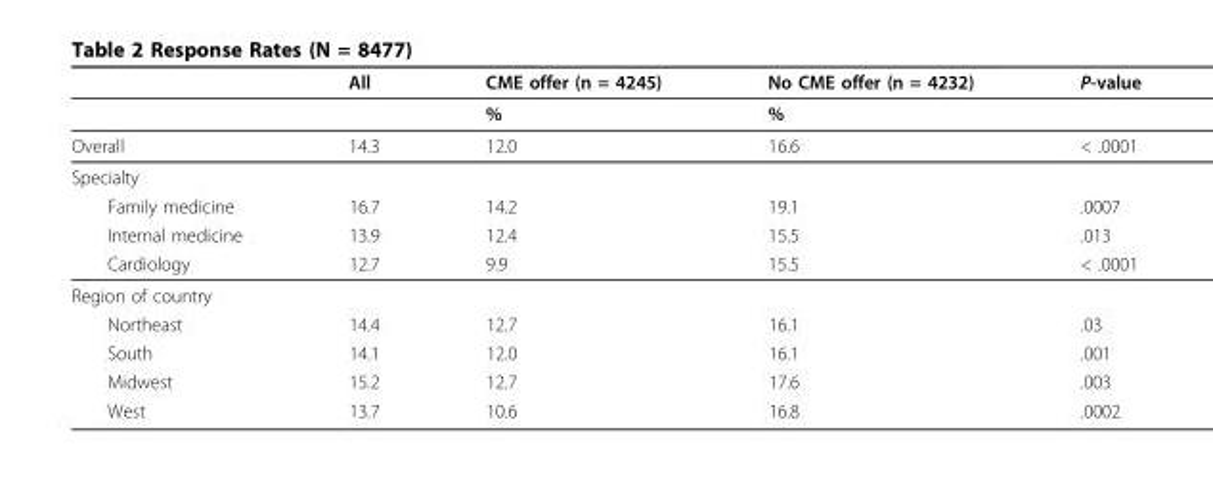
<table><thead><tr><td></td><td>All</td><td>CME offer (n = 4245)</td><td>No CME offer (n = 4232)</td><td>P-value</td></tr></thead><tbody><tr><td></td><td></td><td>%</td><td>%</td><td></td></tr><tr><td>Overall</td><td>14.3</td><td>12.0</td><td>16.6</td><td>&lt; .0001</td></tr><tr><td colspan="5">Specialty</td></tr><tr><td>Family medicine</td><td>16.7</td><td>14.2</td><td>19.1</td><td>.0007</td></tr><tr><td>Internal medicine</td><td>13.9</td><td>12.4</td><td>15.5</td><td>.013</td></tr><tr><td>Cardiology</td><td>12.7</td><td>9.9</td><td>15.5</td><td>&lt; .0001</td></tr><tr><td colspan="5">Region of country</td></tr><tr><td>Northeast</td><td>14.4</td><td>12.7</td><td>16.1</td><td>.03</td></tr><tr><td>South</td><td>14.1</td><td>12.0</td><td>16.1</td><td>.001</td></tr><tr><td>Midwest</td><td>15.2</td><td>12.7</td><td>17.6</td><td>.003</td></tr><tr><td>West</td><td>13.7</td><td>10.6</td><td>16.8</td><td>.0002</td></tr></tbody></table>